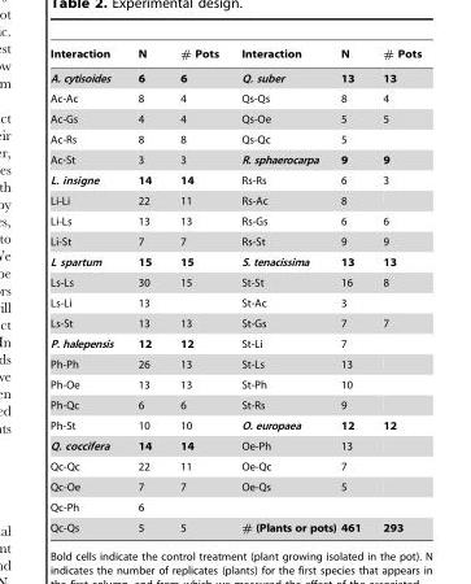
<table><thead><tr><td>Interaction</td><td>N</td><td># Pots</td><td>Interaction</td><td>N</td><td># Pots</td></tr></thead><tbody><tr><td>A. cytisoides</td><td>6</td><td>6</td><td>Q. suber</td><td>13</td><td>13</td></tr><tr><td>Ac-Ac</td><td>8</td><td>4</td><td>Qs-Qs</td><td>8</td><td>4</td></tr><tr><td>Ac-Gs</td><td>4</td><td>4</td><td>Qs-Oe</td><td>5</td><td>5</td></tr><tr><td>Ac-Rs</td><td>8</td><td>8</td><td>Qs-Qc</td><td>5</td><td></td></tr><tr><td>Ac-St</td><td>3</td><td>3</td><td>R. sphaerocarpa</td><td>9</td><td>9</td></tr><tr><td>L. insigne</td><td>14</td><td>14</td><td>Rs-Rs</td><td>6</td><td>3</td></tr><tr><td>Li-Li</td><td>22</td><td>11</td><td>Rs-Ac</td><td>8</td><td></td></tr><tr><td>Li-Ls</td><td>13</td><td>13</td><td>Rs-Gs</td><td>6</td><td>6</td></tr><tr><td>Li-St</td><td>7</td><td>7</td><td>Rs-St</td><td>9</td><td>9</td></tr><tr><td>L spartum</td><td>15</td><td>15</td><td>S. tenacissima</td><td>13</td><td>13</td></tr><tr><td>Ls-Ls</td><td>30</td><td>15</td><td>St-St</td><td>16</td><td>8</td></tr><tr><td>Ls-Li</td><td>13</td><td></td><td>St-Ac</td><td>3</td><td></td></tr><tr><td>Ls-St</td><td>13</td><td>13</td><td>St-Gs</td><td>7</td><td>7</td></tr><tr><td>P. halepensis</td><td>12</td><td>12</td><td>St-Li</td><td>7</td><td></td></tr><tr><td>Ph-Ph</td><td>26</td><td>13</td><td>St-Ls</td><td>13</td><td></td></tr><tr><td>Ph-Oe</td><td>13</td><td>13</td><td>St-Ph</td><td>10</td><td></td></tr><tr><td>Ph-Qc</td><td>6</td><td>6</td><td>St-Rs</td><td>9</td><td></td></tr><tr><td>Ph-St</td><td>10</td><td>10</td><td>O. europaea</td><td>12</td><td>12</td></tr><tr><td>Q. coccifera</td><td>14</td><td>14</td><td>Oe-Ph</td><td>13</td><td></td></tr><tr><td>Qc-Qc</td><td>22</td><td>11</td><td>Oe-Qc</td><td>7</td><td></td></tr><tr><td>Qc-Oe</td><td>7</td><td>7</td><td>Oe-Qs</td><td>5</td><td></td></tr><tr><td>Qc-Ph</td><td>6</td><td></td><td></td><td></td><td></td></tr><tr><td>Qc-Qs</td><td>5</td><td>5</td><td># (Plants or pots)</td><td>461</td><td>293</td></tr></tbody></table>